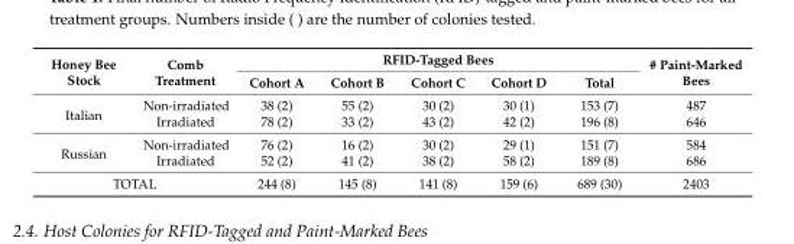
<table><thead><tr><td rowspan="2">Honey Bee Stock</td><td rowspan="2">Comb Treatment</td><td colspan="5">RFID-Tagged Bees</td><td rowspan="2"># Paint-Marked Bees</td></tr><tr><td>Cohort A</td><td>Cohort B</td><td>Cohort C</td><td>Cohort D</td><td>Total</td></tr></thead><tbody><tr><td rowspan="2">Italian</td><td>Non-irradiated</td><td>38 (2)</td><td>55 (2)</td><td>30 (2)</td><td>30 (1)</td><td>153 (7)</td><td>487</td></tr><tr><td>Irradiated</td><td>78 (2)</td><td>33 (2)</td><td>43 (2)</td><td>42 (2)</td><td>196 (8)</td><td>646</td></tr><tr><td rowspan="2">Russian</td><td>Non-irradiated</td><td>76 (2)</td><td>16 (2)</td><td>30 (2)</td><td>29 (1)</td><td>151 (7)</td><td>584</td></tr><tr><td>Irradiated</td><td>52 (2)</td><td>41 (2)</td><td>38 (2)</td><td>58 (2)</td><td>189 (8)</td><td>686</td></tr><tr><td colspan="2">TOTAL</td><td>244 (8)</td><td>145 (8)</td><td>141 (8)</td><td>159 (6)</td><td>689 (30)</td><td>2403</td></tr></tbody></table>